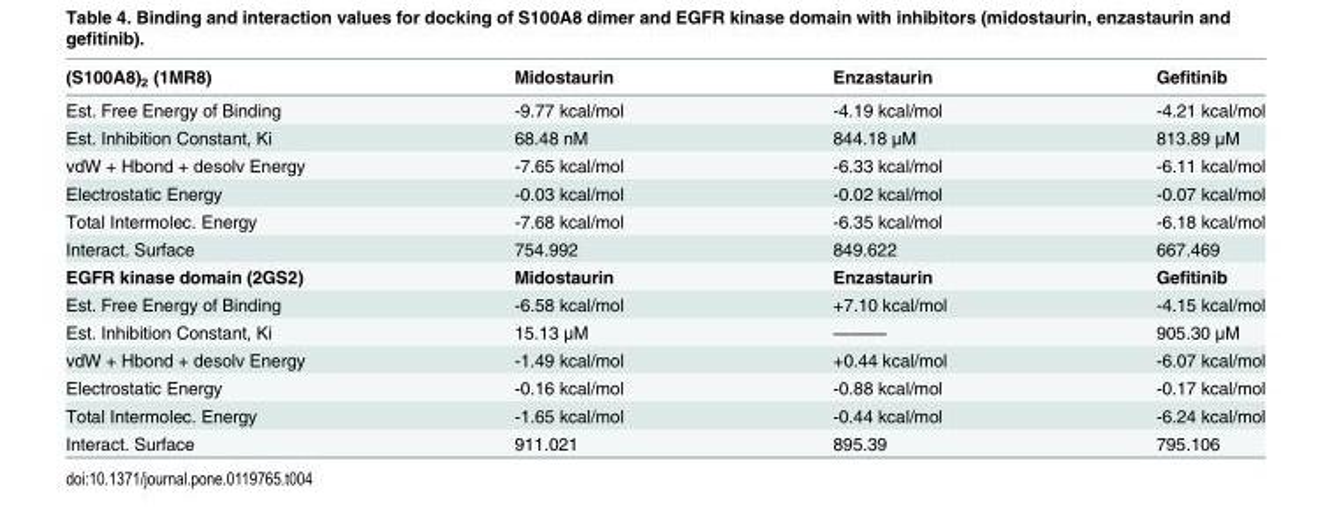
<table><thead><tr><td>(S100A8)<sub>2</sub> (1MR8)</td><td>Midostaurin</td><td>Enzastaurin</td><td>Gefitinib</td></tr></thead><tbody><tr><td>Est. Free Energy of Binding</td><td>-9.77 kcal/mol</td><td>-4.19 kcal/mol</td><td>-4.21 kcal/mol</td></tr><tr><td>Est. Inhibition Constant, Ki</td><td>68.48 nM</td><td>844.18 μM</td><td>813.89 μM</td></tr><tr><td>vdW + Hbond + desolv Energy</td><td>-7.65 kcal/mol</td><td>-6.33 kcal/mol</td><td>-6.11 kcal/mol</td></tr><tr><td>Electrostatic Energy</td><td>-0.03 kcal/mol</td><td>-0.02 kcal/mol</td><td>-0.07 kcal/mol</td></tr><tr><td>Total Intermolec. Energy</td><td>-7.68 kcal/mol</td><td>-6.35 kcal/mol</td><td>-6.18 kcal/mol</td></tr><tr><td>Interact. Surface</td><td>754.992</td><td>849.622</td><td>667.469</td></tr><tr><td>EGFR kinase domain (2GS2)</td><td>Midostaurin</td><td>Enzastaurin</td><td>Gefitinib</td></tr><tr><td>Est. Free Energy of Binding</td><td>-6.58 kcal/mol</td><td>+7.10 kcal/mol</td><td>-4.15 kcal/mol</td></tr><tr><td>Est. Inhibition Constant, Ki</td><td>15.13 μM</td><td>———</td><td>905.30 μM</td></tr><tr><td>vdW + Hbond + desolv Energy</td><td>-1.49 kcal/mol</td><td>+0.44 kcal/mol</td><td>-6.07 kcal/mol</td></tr><tr><td>Electrostatic Energy</td><td>-0.16 kcal/mol</td><td>-0.88 kcal/mol</td><td>-0.17 kcal/mol</td></tr><tr><td>Total Intermolec. Energy</td><td>-1.65 kcal/mol</td><td>-0.44 kcal/mol</td><td>-6.24 kcal/mol</td></tr><tr><td>Interact. Surface</td><td>911.021</td><td>895.39</td><td>795.106</td></tr></tbody></table>